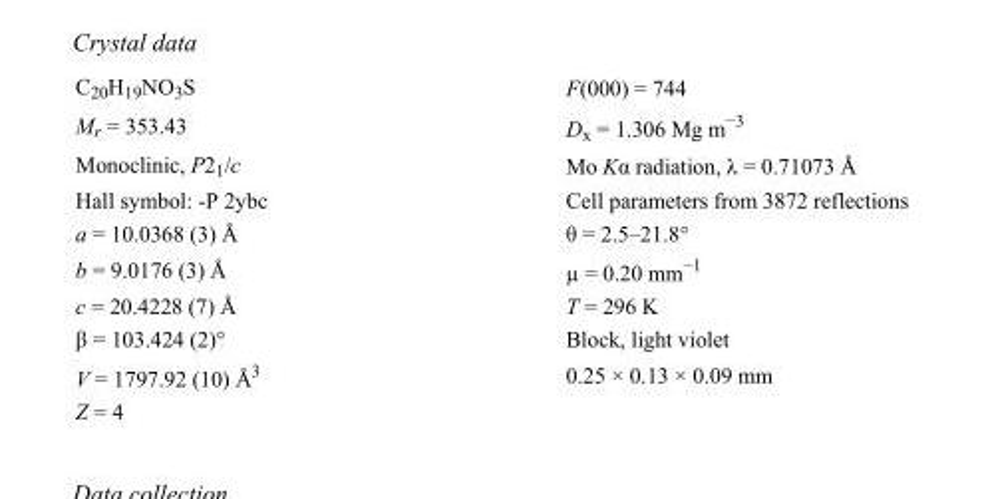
<table><tbody><tr><td>C<sub>20</sub>H<sub>19</sub>NO<sub>3</sub>S</td><td>F(000) = 744</td></tr><tr><td>M<sub>r</sub> = 353.43</td><td>D<sub>x</sub> = 1.306 Mg m<sup>−3</sup></td></tr><tr><td>Monoclinic, P2<sub>1</sub>/c</td><td>Mo Kα radiation, λ = 0.71073 Å</td></tr><tr><td>Hall symbol: -P 2ybc</td><td>Cell parameters from 3872 reflections</td></tr><tr><td>a = 10.0368 (3) Å</td><td>θ = 2.5–21.8°</td></tr><tr><td>b = 9.0176 (3) Å</td><td>µ = 0.20 mm<sup>−1</sup></td></tr><tr><td>c = 20.4228 (7) Å</td><td>T = 296 K</td></tr><tr><td>β = 103.424 (2)°</td><td>Block, light violet</td></tr><tr><td>V = 1797.92 (10) Å<sup>3</sup></td><td>0.25 × 0.13 × 0.09 mm</td></tr><tr><td>Z = 4</td><td></td></tr></tbody></table>